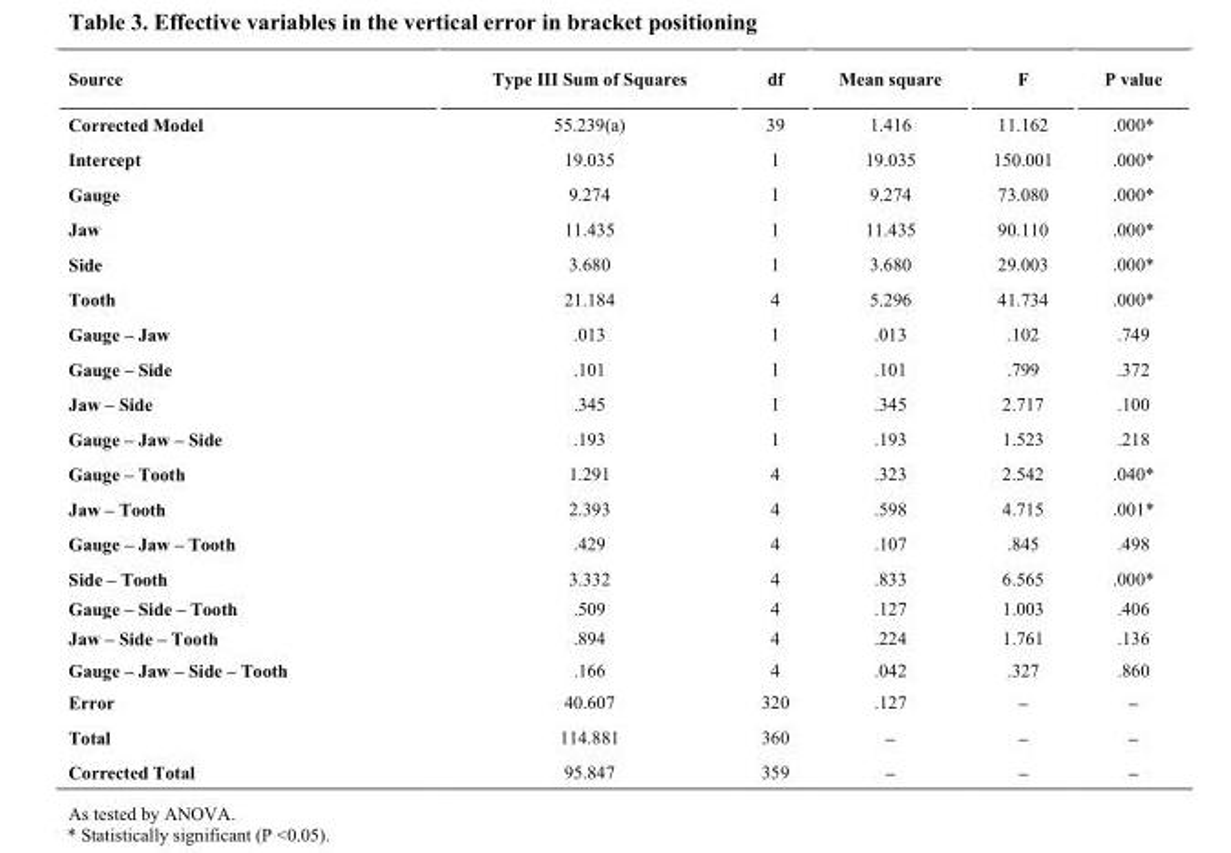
<table><tbody><tr><td>Source</td><td>Type III Sum of Squares</td><td>df</td><td>Mean square</td><td>F</td><td>P value</td></tr><tr><td>Corrected Model</td><td>55.239(a)</td><td>39</td><td>1.416</td><td>11.162</td><td>.000*</td></tr><tr><td>Intercept</td><td>19.035</td><td>1</td><td>19.035</td><td>150.001</td><td>.000*</td></tr><tr><td>Gauge</td><td>9.274</td><td>1</td><td>9.274</td><td>73.080</td><td>.000*</td></tr><tr><td>Jaw</td><td>11.435</td><td>1</td><td>11.435</td><td>90.110</td><td>.000*</td></tr><tr><td>Side</td><td>3.680</td><td>1</td><td>3.680</td><td>29.003</td><td>.000*</td></tr><tr><td>Tooth</td><td>21.184</td><td>4</td><td>5.296</td><td>41.734</td><td>.000*</td></tr><tr><td>Gauge – Jaw</td><td>.013</td><td>1</td><td>.013</td><td>.102</td><td>.749</td></tr><tr><td>Gauge – Side</td><td>.101</td><td>1</td><td>.101</td><td>.799</td><td>.372</td></tr><tr><td>Jaw – Side</td><td>.345</td><td>1</td><td>.345</td><td>2.717</td><td>.100</td></tr><tr><td>Gauge – Jaw – Side</td><td>.193</td><td>1</td><td>.193</td><td>1.523</td><td>.218</td></tr><tr><td>Gauge – Tooth</td><td>1.291</td><td>4</td><td>.323</td><td>2.542</td><td>.040*</td></tr><tr><td>Jaw – Tooth</td><td>2.393</td><td>4</td><td>.598</td><td>4.715</td><td>.001*</td></tr><tr><td>Gauge – Jaw – Tooth</td><td>.429</td><td>4</td><td>.107</td><td>.845</td><td>.498</td></tr><tr><td>Side – Tooth</td><td>3.332</td><td>4</td><td>.833</td><td>6.565</td><td>.000*</td></tr><tr><td>Gauge – Side – Tooth</td><td>.509</td><td>4</td><td>.127</td><td>1.003</td><td>.406</td></tr><tr><td>Jaw – Side – Tooth</td><td>.894</td><td>4</td><td>.224</td><td>1.761</td><td>.136</td></tr><tr><td>Gauge – Jaw – Side – Tooth</td><td>.166</td><td>4</td><td>.042</td><td>.327</td><td>.860</td></tr><tr><td>Error</td><td>40.607</td><td>320</td><td>.127</td><td>–</td><td>–</td></tr><tr><td>Total</td><td>114.881</td><td>360</td><td>–</td><td>–</td><td>–</td></tr><tr><td>Corrected Total</td><td>95.847</td><td>359</td><td>–</td><td>–</td><td>–</td></tr></tbody></table>